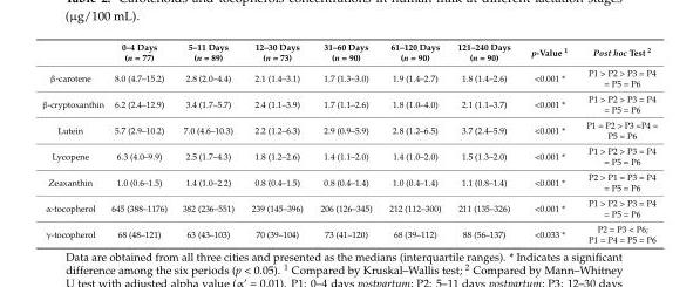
<table><thead><tr><td></td><td>0–4 Days (n = 77)</td><td>5–11 Days (n = 89)</td><td>12–30 Days (n = 73)</td><td>31–60 Days (n = 90)</td><td>61–120 Days (n = 90)</td><td>121–240 Days (n = 90)</td><td>p-Value <sup>1</sup></td><td>Post hoc Test <sup>2</sup></td></tr></thead><tbody><tr><td>β-carotene</td><td>8.0 (4.7–15.2)</td><td>2.8 (2.0–4.4)</td><td>2.1 (1.4–3.1)</td><td>1.7 (1.3–3.0)</td><td>1.9 (1.4–2.7)</td><td>1.8 (1.4–2.6)</td><td>&lt;0.001 *</td><td>P1 &gt; P2 &gt; P3 = P4 = P5 = P6</td></tr><tr><td>β-cryptoxanthin</td><td>6.2 (2.4–12.9)</td><td>3.4 (1.7–5.7)</td><td>2.4 (1.1–3.9)</td><td>1.7 (1.1–2.6)</td><td>1.8 (1.0–4.0)</td><td>2.1 (1.1–3.7)</td><td>&lt;0.001 *</td><td>P1 &gt; P2 &gt; P3 = P4 = P5 = P6</td></tr><tr><td>Lutein</td><td>5.7 (2.9–10.2)</td><td>7.0 (4.6–10.3)</td><td>2.2 (1.2–6.3)</td><td>2.9 (0.9–5.9)</td><td>2.8 (1.2–6.5)</td><td>3.7 (2.4–5.9)</td><td>&lt;0.001 *</td><td>P1 = P2 &gt; P3 =P4 = P5 = P6</td></tr><tr><td>Lycopene</td><td>6.3 (4.0–9.9)</td><td>2.5 (1.7–4.3)</td><td>1.8 (1.2–2.6)</td><td>1.4 (1.1–2.0)</td><td>1.4 (1.0–2.0)</td><td>1.5 (1.3–2.0)</td><td>&lt;0.001 *</td><td>P1 &gt; P2 &gt; P3 = P4 = P5 = P6</td></tr><tr><td>Zeaxanthin</td><td>1.0 (0.6–1.5)</td><td>1.4 (1.0–2.2)</td><td>0.8 (0.4–1.5)</td><td>0.8 (0.4–1.4)</td><td>1.0 (0.4–1.4)</td><td>1.1 (0.8–1.4)</td><td>&lt;0.001 *</td><td>P2 &gt; P1 = P3 = P4 = P5 = P6</td></tr><tr><td>α-tocopherol</td><td>645 (388–1176)</td><td>382 (236–551)</td><td>239 (145–396)</td><td>206 (126–345)</td><td>212 (112–300)</td><td>211 (135–326)</td><td>&lt;0.001 *</td><td>P1 &gt; P2 &gt; P3 = P4 = P5 = P6</td></tr><tr><td>γ-tocopherol</td><td>68 (48–121)</td><td>63 (43–103)</td><td>70 (39–104)</td><td>73 (41–120)</td><td>68 (39–112)</td><td>88 (56–137)</td><td>&lt;0.033 *</td><td>P2 = P3 &lt; P6; P1 = P4 = P5 = P6</td></tr></tbody></table>